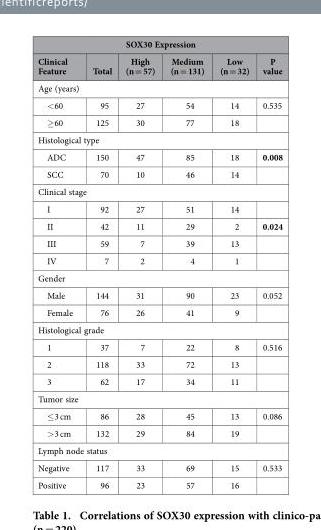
<table><thead><tr><td colspan="6">SOX30 Expression</td></tr><tr><td>Clinical Feature</td><td>Total</td><td>High (n = 57)</td><td>Medium (n = 131)</td><td>Low (n = 32)</td><td>P value</td></tr></thead><tbody><tr><td colspan="6">Age (years)</td></tr><tr><td>&lt; 60</td><td>95</td><td>27</td><td>54</td><td>14</td><td>0.535</td></tr><tr><td>≥ 60</td><td>125</td><td>30</td><td>77</td><td>18</td><td></td></tr><tr><td colspan="6">Histological type</td></tr><tr><td>ADC</td><td>150</td><td>47</td><td>85</td><td>18</td><td>0.008</td></tr><tr><td>SCC</td><td>70</td><td>10</td><td>46</td><td>14</td><td></td></tr><tr><td colspan="6">Clinical stage</td></tr><tr><td>I</td><td>92</td><td>27</td><td>51</td><td>14</td><td></td></tr><tr><td>II</td><td>42</td><td>11</td><td>29</td><td>2</td><td>0.024</td></tr><tr><td>III</td><td>59</td><td>7</td><td>39</td><td>13</td><td></td></tr><tr><td>IV</td><td>7</td><td>2</td><td>4</td><td>1</td><td></td></tr><tr><td colspan="6">Gender</td></tr><tr><td>Male</td><td>144</td><td>31</td><td>90</td><td>23</td><td>0.052</td></tr><tr><td>Female</td><td>76</td><td>26</td><td>41</td><td>9</td><td></td></tr><tr><td colspan="6">Histological grade</td></tr><tr><td>1</td><td>37</td><td>7</td><td>22</td><td>8</td><td>0.516</td></tr><tr><td>2</td><td>118</td><td>33</td><td>72</td><td>13</td><td></td></tr><tr><td>3</td><td>62</td><td>17</td><td>34</td><td>11</td><td></td></tr><tr><td colspan="6">Tumor size</td></tr><tr><td>≤ 3 cm</td><td>86</td><td>28</td><td>45</td><td>13</td><td>0.086</td></tr><tr><td>&gt; 3 cm</td><td>132</td><td>29</td><td>84</td><td>19</td><td></td></tr><tr><td colspan="6">Lymph node status</td></tr><tr><td>Negative</td><td>117</td><td>33</td><td>69</td><td>15</td><td>0.533</td></tr><tr><td>Positive</td><td>96</td><td>23</td><td>57</td><td>16</td><td></td></tr></tbody></table>